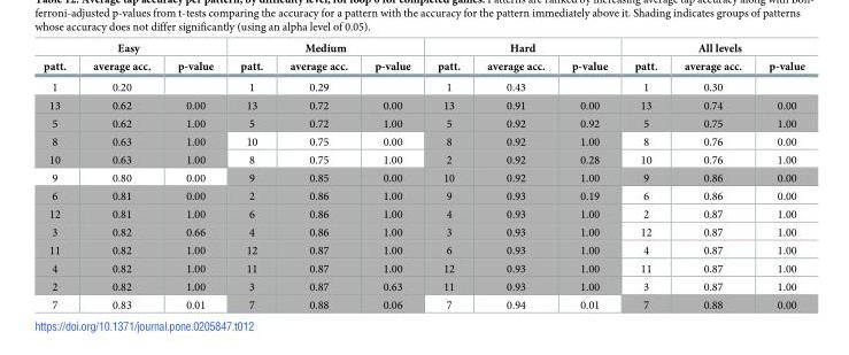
<table><thead><tr><td colspan="3">Easy</td><td colspan="3">Medium</td><td colspan="3">Hard</td><td colspan="3">All levels</td></tr><tr><td>patt.</td><td>average acc.</td><td>p-value</td><td>patt.</td><td>average acc.</td><td>p-value</td><td>patt.</td><td>average acc.</td><td>p-value</td><td>patt.</td><td>average acc.</td><td>p-value</td></tr></thead><tbody><tr><td>1</td><td>0.20</td><td></td><td>1</td><td>0.29</td><td></td><td>1</td><td>0.43</td><td></td><td>1</td><td>0.30</td><td></td></tr><tr><td>13</td><td>0.62</td><td>0.00</td><td>13</td><td>0.72</td><td>0.00</td><td>13</td><td>0.91</td><td>0.00</td><td>13</td><td>0.74</td><td>0.00</td></tr><tr><td>5</td><td>0.62</td><td>1.00</td><td>5</td><td>0.72</td><td>1.00</td><td>5</td><td>0.92</td><td>0.92</td><td>5</td><td>0.75</td><td>1.00</td></tr><tr><td>8</td><td>0.63</td><td>1.00</td><td>10</td><td>0.75</td><td>0.00</td><td>8</td><td>0.92</td><td>1.00</td><td>8</td><td>0.76</td><td>0.00</td></tr><tr><td>10</td><td>0.63</td><td>1.00</td><td>8</td><td>0.75</td><td>1.00</td><td>2</td><td>0.92</td><td>0.28</td><td>10</td><td>0.76</td><td>1.00</td></tr><tr><td>9</td><td>0.80</td><td>0.00</td><td>9</td><td>0.85</td><td>0.00</td><td>10</td><td>0.92</td><td>1.00</td><td>9</td><td>0.86</td><td>0.00</td></tr><tr><td>6</td><td>0.81</td><td>0.00</td><td>2</td><td>0.86</td><td>1.00</td><td>9</td><td>0.93</td><td>0.19</td><td>6</td><td>0.86</td><td>0.00</td></tr><tr><td>12</td><td>0.81</td><td>1.00</td><td>6</td><td>0.86</td><td>1.00</td><td>4</td><td>0.93</td><td>1.00</td><td>2</td><td>0.87</td><td>1.00</td></tr><tr><td>3</td><td>0.82</td><td>0.66</td><td>4</td><td>0.86</td><td>1.00</td><td>3</td><td>0.93</td><td>1.00</td><td>12</td><td>0.87</td><td>1.00</td></tr><tr><td>11</td><td>0.82</td><td>1.00</td><td>12</td><td>0.87</td><td>1.00</td><td>6</td><td>0.93</td><td>1.00</td><td>4</td><td>0.87</td><td>1.00</td></tr><tr><td>4</td><td>0.82</td><td>1.00</td><td>11</td><td>0.87</td><td>1.00</td><td>12</td><td>0.93</td><td>1.00</td><td>11</td><td>0.87</td><td>1.00</td></tr><tr><td>2</td><td>0.82</td><td>1.00</td><td>3</td><td>0.87</td><td>0.63</td><td>11</td><td>0.93</td><td>1.00</td><td>3</td><td>0.87</td><td>1.00</td></tr><tr><td>7</td><td>0.83</td><td>0.01</td><td>7</td><td>0.88</td><td>0.06</td><td>7</td><td>0.94</td><td>0.01</td><td>7</td><td>0.88</td><td>0.00</td></tr></tbody></table>